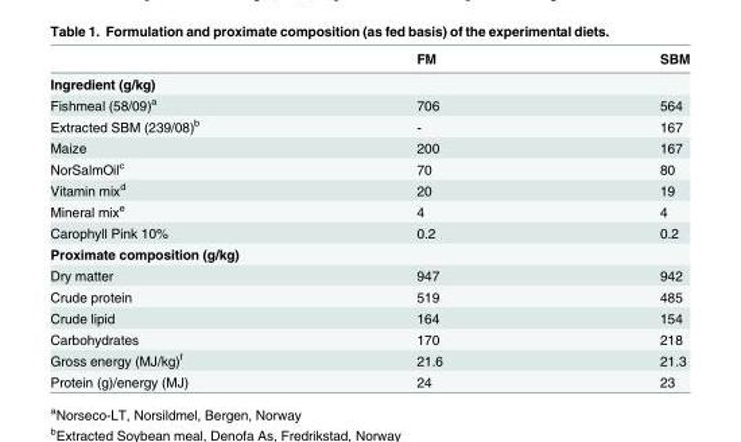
<table><thead><tr><td></td><td>FM</td><td>SBM</td></tr></thead><tbody><tr><td colspan="3">Ingredient (g/kg)</td></tr><tr><td>Fishmeal (58/09)<sup>a</sup></td><td>706</td><td>564</td></tr><tr><td>Extracted SBM (239/08)<sup>b</sup></td><td>-</td><td>167</td></tr><tr><td>Maize</td><td>200</td><td>167</td></tr><tr><td>NorSalmOil<sup>c</sup></td><td>70</td><td>80</td></tr><tr><td>Vitamin mix<sup>d</sup></td><td>20</td><td>19</td></tr><tr><td>Mineral mix<sup>e</sup></td><td>4</td><td>4</td></tr><tr><td>Carophyll Pink 10%</td><td>0.2</td><td>0.2</td></tr><tr><td colspan="3">Proximate composition (g/kg)</td></tr><tr><td>Dry matter</td><td>947</td><td>942</td></tr><tr><td>Crude protein</td><td>519</td><td>485</td></tr><tr><td>Crude lipid</td><td>164</td><td>154</td></tr><tr><td>Carbohydrates</td><td>170</td><td>218</td></tr><tr><td>Gross energy (MJ/kg)<sup>f</sup></td><td>21.6</td><td>21.3</td></tr><tr><td>Protein (g)/energy (MJ)</td><td>24</td><td>23</td></tr></tbody></table>